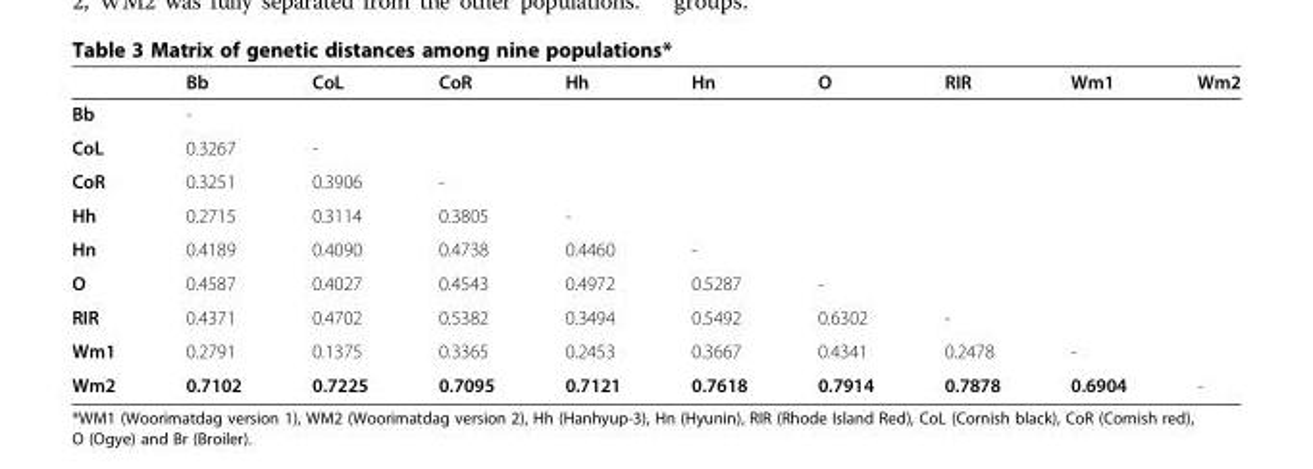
<table><thead><tr><td></td><td>Bb</td><td>CoL</td><td>CoR</td><td>Hh</td><td>Hn</td><td>O</td><td>RIR</td><td>Wm1</td><td>Wm2</td></tr></thead><tbody><tr><td>Bb</td><td>-</td><td></td><td></td><td></td><td></td><td></td><td></td><td></td><td></td></tr><tr><td>CoL</td><td>0.3267</td><td>-</td><td></td><td></td><td></td><td></td><td></td><td></td><td></td></tr><tr><td>CoR</td><td>0.3251</td><td>0.3906</td><td>-</td><td></td><td></td><td></td><td></td><td></td><td></td></tr><tr><td>Hh</td><td>0.2715</td><td>0.3114</td><td>0.3805</td><td>-</td><td></td><td></td><td></td><td></td><td></td></tr><tr><td>Hn</td><td>0.4189</td><td>0.4090</td><td>0.4738</td><td>0.4460</td><td>-</td><td></td><td></td><td></td><td></td></tr><tr><td>O</td><td>0.4587</td><td>0.4027</td><td>0.4543</td><td>0.4972</td><td>0.5287</td><td>-</td><td></td><td></td><td></td></tr><tr><td>RIR</td><td>0.4371</td><td>0.4702</td><td>0.5382</td><td>0.3494</td><td>0.5492</td><td>0.6302</td><td>-</td><td></td><td></td></tr><tr><td>Wm1</td><td>0.2791</td><td>0.1375</td><td>0.3365</td><td>0.2453</td><td>0.3667</td><td>0.4341</td><td>0.2478</td><td>-</td><td></td></tr><tr><td>Wm2</td><td>0.7102</td><td>0.7225</td><td>0.7095</td><td>0.7121</td><td>0.7618</td><td>0.7914</td><td>0.7878</td><td>0.6904</td><td>-</td></tr></tbody></table>